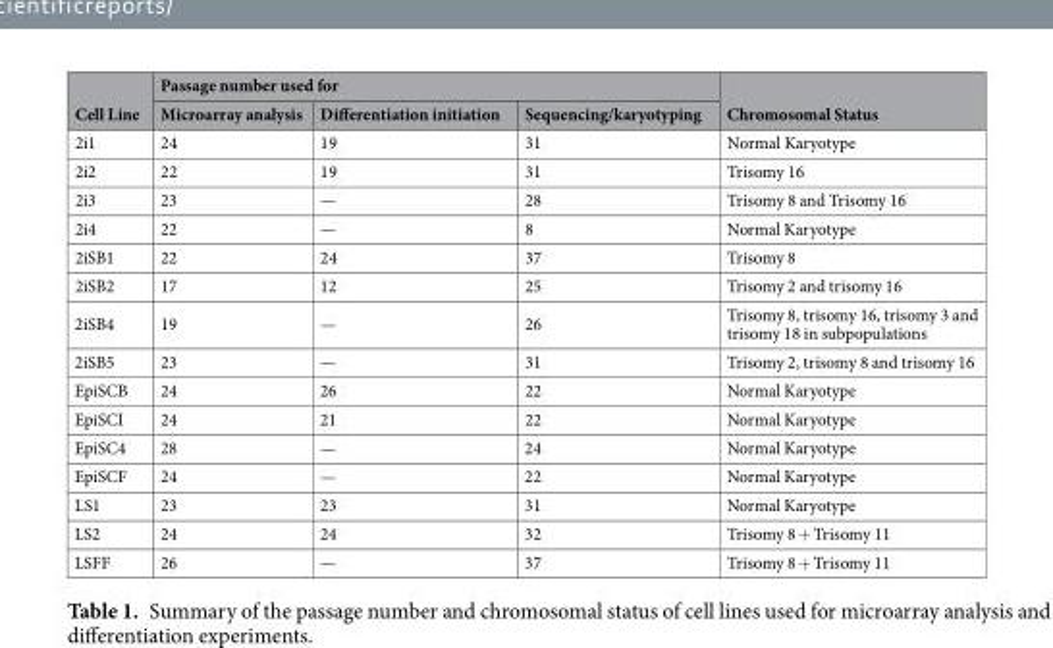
<table><thead><tr><td rowspan="2">Cell Line</td><td colspan="3">Passage number used for</td><td rowspan="2">Chromosomal Status</td></tr><tr><td>Microarray analysis</td><td>Differentiation initiation</td><td>Sequencing/karyotyping</td></tr></thead><tbody><tr><td>2i1</td><td>24</td><td>19</td><td>31</td><td>Normal Karyotype</td></tr><tr><td>2i2</td><td>22</td><td>19</td><td>31</td><td>Trisomy 16</td></tr><tr><td>2i3</td><td>23</td><td>—</td><td>28</td><td>Trisomy 8 and Trisomy 16</td></tr><tr><td>2i4</td><td>22</td><td>—</td><td>8</td><td>Normal Karyotype</td></tr><tr><td>2iSB1</td><td>22</td><td>24</td><td>37</td><td>Trisomy 8</td></tr><tr><td>2iSB2</td><td>17</td><td>12</td><td>25</td><td>Trisomy 2 and trisomy 16</td></tr><tr><td>2iSB4</td><td>19</td><td>—</td><td>26</td><td>Trisomy 8, trisomy 16, trisomy 3 and trisomy 18 in subpopulations</td></tr><tr><td>2iSB5</td><td>23</td><td>—</td><td>31</td><td>Trisomy 2, trisomy 8 and trisomy 16</td></tr><tr><td>EpiSCB</td><td>24</td><td>26</td><td>22</td><td>Normal Karyotype</td></tr><tr><td>EpiSCI</td><td>24</td><td>21</td><td>22</td><td>Normal Karyotype</td></tr><tr><td>EpiSC4</td><td>28</td><td>—</td><td>24</td><td>Normal Karyotype</td></tr><tr><td>EpiSCF</td><td>24</td><td>—</td><td>22</td><td>Normal Karyotype</td></tr><tr><td>LS1</td><td>23</td><td>23</td><td>31</td><td>Normal Karyotype</td></tr><tr><td>LS2</td><td>24</td><td>24</td><td>32</td><td>Trisomy 8 + Trisomy 11</td></tr><tr><td>LSFF</td><td>26</td><td>—</td><td>37</td><td>Trisomy 8 + Trisomy 11</td></tr></tbody></table>